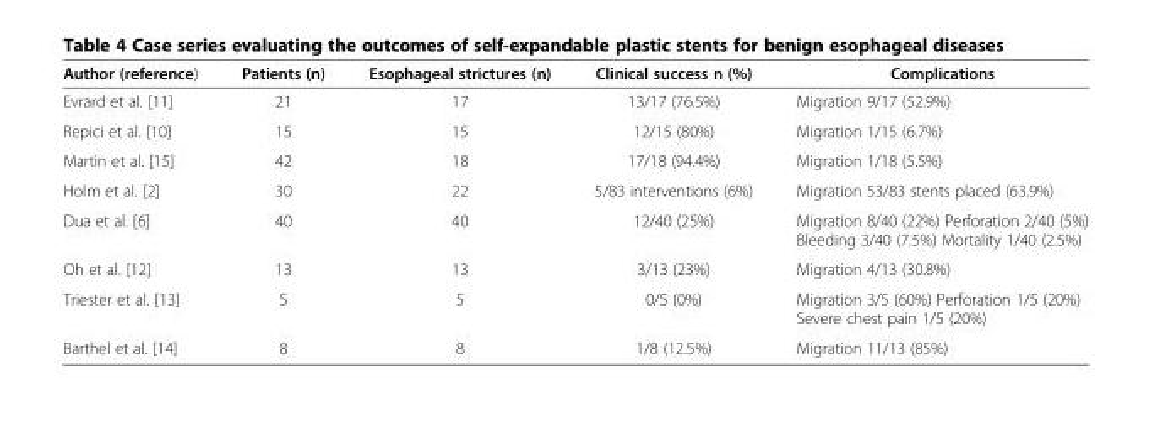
<table><thead><tr><td>Author (reference)</td><td>Patients (n)</td><td>Esophageal strictures (n)</td><td>Clinical success n (%)</td><td>Complications</td></tr></thead><tbody><tr><td>Evrard et al. [11]</td><td>21</td><td>17</td><td>13/17 (76.5%)</td><td>Migration 9/17 (52.9%)</td></tr><tr><td>Repici et al. [10]</td><td>15</td><td>15</td><td>12/15 (80%)</td><td>Migration 1/15 (6.7%)</td></tr><tr><td>Martin et al. [15]</td><td>42</td><td>18</td><td>17/18 (94.4%)</td><td>Migration 1/18 (5.5%)</td></tr><tr><td>Holm et al. [2]</td><td>30</td><td>22</td><td>5/83 interventions (6%)</td><td>Migration 53/83 stents placed (63.9%)</td></tr><tr><td>Dua et al. [6]</td><td>40</td><td>40</td><td>12/40 (25%)</td><td>Migration 8/40 (22%) Perforation 2/40 (5%) Bleeding 3/40 (7.5%) Mortality 1/40 (2.5%)</td></tr><tr><td>Oh et al. [12]</td><td>13</td><td>13</td><td>3/13 (23%)</td><td>Migration 4/13 (30.8%)</td></tr><tr><td>Triester et al. [13]</td><td>5</td><td>5</td><td>0/5 (0%)</td><td>Migration 3/5 (60%) Perforation 1/5 (20%) Severe chest pain 1/5 (20%)</td></tr><tr><td>Barthel et al. [14]</td><td>8</td><td>8</td><td>1/8 (12.5%)</td><td>Migration 11/13 (85%)</td></tr></tbody></table>